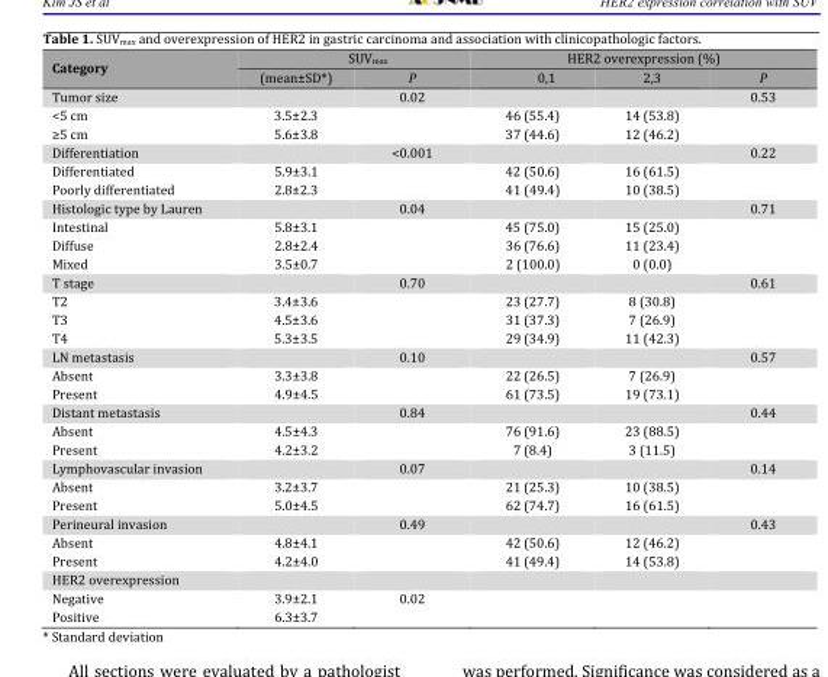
<table><thead><tr><td rowspan="2">Category</td><td colspan="2">SUV<sub>max</sub></td><td colspan="3">HER2 overexpression (%)</td></tr><tr><td>(mean±SD*)</td><td>P</td><td>0,1</td><td>2,3</td><td>P</td></tr></thead><tbody><tr><td>Tumor size</td><td></td><td>0.02</td><td></td><td></td><td>0.53</td></tr><tr><td>&lt;5 cm</td><td>3.5±2.3</td><td></td><td>46 (55.4)</td><td>14 (53.8)</td><td></td></tr><tr><td>≥5 cm</td><td>5.6±3.8</td><td></td><td>37 (44.6)</td><td>12 (46.2)</td><td></td></tr><tr><td>Differentiation</td><td></td><td>&lt;0.001</td><td></td><td></td><td>0.22</td></tr><tr><td>Differentiated</td><td>5.9±3.1</td><td></td><td>42 (50.6)</td><td>16 (61.5)</td><td></td></tr><tr><td>Poorly differentiated</td><td>2.8±2.3</td><td></td><td>41 (49.4)</td><td>10 (38.5)</td><td></td></tr><tr><td>Histologic type by Lauren</td><td></td><td>0.04</td><td></td><td></td><td>0.71</td></tr><tr><td>Intestinal</td><td>5.8±3.1</td><td></td><td>45 (75.0)</td><td>15 (25.0)</td><td></td></tr><tr><td>Diffuse</td><td>2.8±2.4</td><td></td><td>36 (76.6)</td><td>11 (23.4)</td><td></td></tr><tr><td>Mixed</td><td>3.5±0.7</td><td></td><td>2 (100.0)</td><td>0 (0.0)</td><td></td></tr><tr><td>T stage</td><td></td><td>0.70</td><td></td><td></td><td>0.61</td></tr><tr><td>T2</td><td>3.4±3.6</td><td></td><td>23 (27.7)</td><td>8 (30.8)</td><td></td></tr><tr><td>T3</td><td>4.5±3.6</td><td></td><td>31 (37.3)</td><td>7 (26.9)</td><td></td></tr><tr><td>T4</td><td>5.3±3.5</td><td></td><td>29 (34.9)</td><td>11 (42.3)</td><td></td></tr><tr><td>LN metastasis</td><td></td><td>0.10</td><td></td><td></td><td>0.57</td></tr><tr><td>Absent</td><td>3.3±3.8</td><td></td><td>22 (26.5)</td><td>7 (26.9)</td><td></td></tr><tr><td>Present</td><td>4.9±4.5</td><td></td><td>61 (73.5)</td><td>19 (73.1)</td><td></td></tr><tr><td>Distant metastasis</td><td></td><td>0.84</td><td></td><td></td><td>0.44</td></tr><tr><td>Absent</td><td>4.5±4.3</td><td></td><td>76 (91.6)</td><td>23 (88.5)</td><td></td></tr><tr><td>Present</td><td>4.2±3.2</td><td></td><td>7 (8.4)</td><td>3 (11.5)</td><td></td></tr><tr><td>Lymphovascular invasion</td><td></td><td>0.07</td><td></td><td></td><td>0.14</td></tr><tr><td>Absent</td><td>3.2±3.7</td><td></td><td>21 (25.3)</td><td>10 (38.5)</td><td></td></tr><tr><td>Present</td><td>5.0±4.5</td><td></td><td>62 (74.7)</td><td>16 (61.5)</td><td></td></tr><tr><td>Perineural invasion</td><td></td><td>0.49</td><td></td><td></td><td>0.43</td></tr><tr><td>Absent</td><td>4.8±4.1</td><td></td><td>42 (50.6)</td><td>12 (46.2)</td><td></td></tr><tr><td>Present</td><td>4.2±4.0</td><td></td><td>41 (49.4)</td><td>14 (53.8)</td><td></td></tr><tr><td colspan="6">HER2 overexpression</td></tr><tr><td>Negative</td><td>3.9±2.1</td><td>0.02</td><td></td><td></td><td></td></tr><tr><td>Positive</td><td>6.3±3.7</td><td></td><td></td><td></td><td></td></tr></tbody></table>